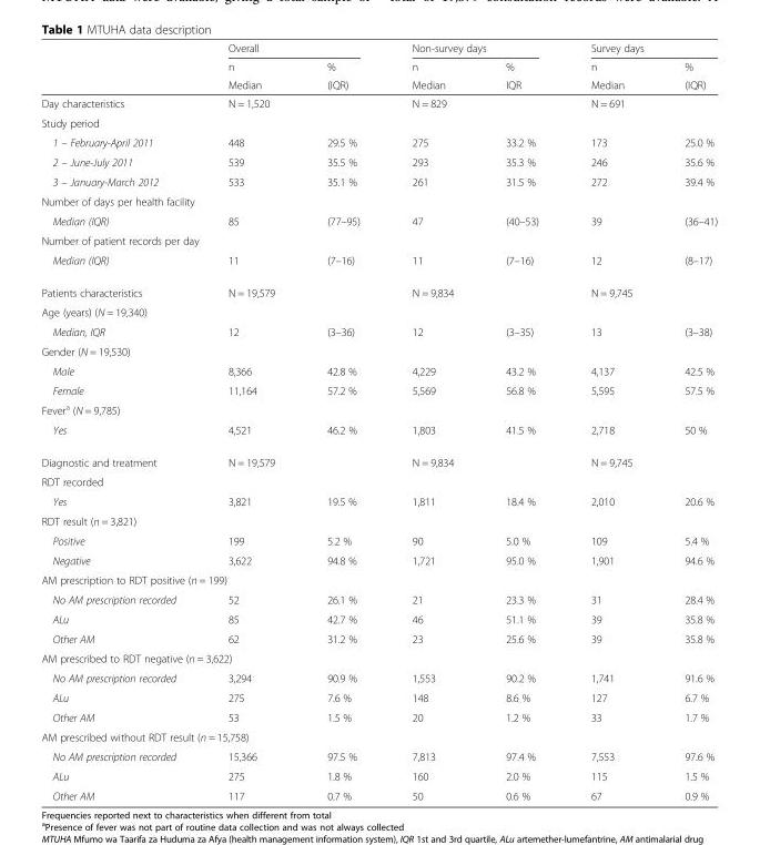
<table><thead><tr><td rowspan="3"></td><td colspan="2">Overall</td><td colspan="2">Non-survey days</td><td colspan="2">Survey days</td></tr><tr><td rowspan="2">n Median</td><td rowspan="2">% (IQR)</td><td rowspan="2">n Median</td><td rowspan="2">% IQR</td><td rowspan="2">n Median</td><td rowspan="2">% (IQR)</td></tr><tr></tr></thead><tbody><tr><td>Day characteristics</td><td>N = 1,520</td><td></td><td>N = 829</td><td></td><td>N = 691</td><td></td></tr><tr><td colspan="7">Study period</td></tr><tr><td>1 – February-April 2011</td><td>448</td><td>29.5 %</td><td>275</td><td>33.2 %</td><td>173</td><td>25.0 %</td></tr><tr><td>2 – June-July 2011</td><td>539</td><td>35.5 %</td><td>293</td><td>35.3 %</td><td>246</td><td>35.6 %</td></tr><tr><td>3 – January-March 2012</td><td>533</td><td>35.1 %</td><td>261</td><td>31.5 %</td><td>272</td><td>39.4 %</td></tr><tr><td colspan="7">Number of days per health facility</td></tr><tr><td>Median (IQR)</td><td>85</td><td>(77–95)</td><td>47</td><td>(40–53)</td><td>39</td><td>(36–41)</td></tr><tr><td colspan="7">Number of patient records per day</td></tr><tr><td>Median (IQR)</td><td>11</td><td>(7–16)</td><td>11</td><td>(7–16)</td><td>12</td><td>(8–17)</td></tr><tr><td>Patients characteristics</td><td>N = 19,579</td><td></td><td>N = 9,834</td><td></td><td>N = 9,745</td><td></td></tr><tr><td colspan="7">Age (years) (N = 19,340)</td></tr><tr><td>Median, IQR</td><td>12</td><td>(3–36)</td><td>12</td><td>(3–35)</td><td>13</td><td>(3–38)</td></tr><tr><td colspan="7">Gender (N = 19,530)</td></tr><tr><td>Male</td><td>8,366</td><td>42.8 %</td><td>4,229</td><td>43.2 %</td><td>4,137</td><td>42.5 %</td></tr><tr><td>Female</td><td>11,164</td><td>57.2 %</td><td>5,569</td><td>56.8 %</td><td>5,595</td><td>57.5 %</td></tr><tr><td colspan="7">Fever<sup>a</sup> (N = 9,785)</td></tr><tr><td>Yes</td><td>4,521</td><td>46.2 %</td><td>1,803</td><td>41.5 %</td><td>2,718</td><td>50 %</td></tr><tr><td>Diagnostic and treatment</td><td>N = 19,579</td><td></td><td>N = 9,834</td><td></td><td>N = 9,745</td><td></td></tr><tr><td colspan="7">RDT recorded</td></tr><tr><td>Yes</td><td>3,821</td><td>19.5 %</td><td>1,811</td><td>18.4 %</td><td>2,010</td><td>20.6 %</td></tr><tr><td colspan="7">RDT result (n = 3,821)</td></tr><tr><td>Positive</td><td>199</td><td>5.2 %</td><td>90</td><td>5.0 %</td><td>109</td><td>5.4 %</td></tr><tr><td>Negative</td><td>3,622</td><td>94.8 %</td><td>1,721</td><td>95.0 %</td><td>1,901</td><td>94.6 %</td></tr><tr><td colspan="7">AM prescription to RDT positive (n = 199)</td></tr><tr><td>No AM prescription recorded</td><td>52</td><td>26.1 %</td><td>21</td><td>23.3 %</td><td>31</td><td>28.4 %</td></tr><tr><td>ALu</td><td>85</td><td>42.7 %</td><td>46</td><td>51.1 %</td><td>39</td><td>35.8 %</td></tr><tr><td>Other AM</td><td>62</td><td>31.2 %</td><td>23</td><td>25.6 %</td><td>39</td><td>35.8 %</td></tr><tr><td colspan="7">AM prescribed to RDT negative (n = 3,622)</td></tr><tr><td>No AM prescription recorded</td><td>3,294</td><td>90.9 %</td><td>1,553</td><td>90.2 %</td><td>1,741</td><td>91.6 %</td></tr><tr><td>ALu</td><td>275</td><td>7.6 %</td><td>148</td><td>8.6 %</td><td>127</td><td>6.7 %</td></tr><tr><td>Other AM</td><td>53</td><td>1.5 %</td><td>20</td><td>1.2 %</td><td>33</td><td>1.7 %</td></tr><tr><td colspan="7">AM prescribed without RDT result (n = 15,758)</td></tr><tr><td>No AM prescription recorded</td><td>15,366</td><td>97.5 %</td><td>7,813</td><td>97.4 %</td><td>7,553</td><td>97.6 %</td></tr><tr><td>ALu</td><td>275</td><td>1.8 %</td><td>160</td><td>2.0 %</td><td>115</td><td>1.5 %</td></tr><tr><td>Other AM</td><td>117</td><td>0.7 %</td><td>50</td><td>0.6 %</td><td>67</td><td>0.9 %</td></tr></tbody></table>